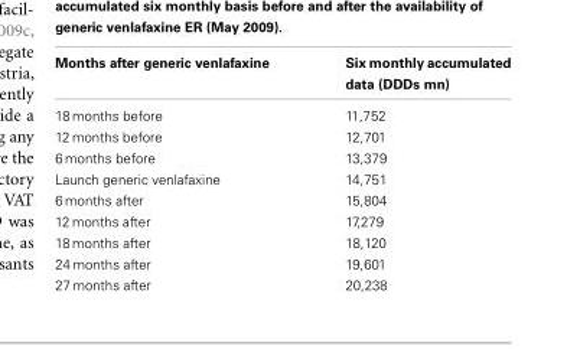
<table><thead><tr><td>Months after generic venlafaxine</td><td>Six monthly accumulated data (DDDs mn)</td></tr></thead><tbody><tr><td>18 months before</td><td>11,752</td></tr><tr><td>12 months before</td><td>12,701</td></tr><tr><td>6 months before</td><td>13,379</td></tr><tr><td>Launch generic venlafaxine</td><td>14,751</td></tr><tr><td>6 months after</td><td>15,804</td></tr><tr><td>12 months after</td><td>17,279</td></tr><tr><td>18 months after</td><td>18,120</td></tr><tr><td>24 months after</td><td>19,601</td></tr><tr><td>27 months after</td><td>20,238</td></tr></tbody></table>